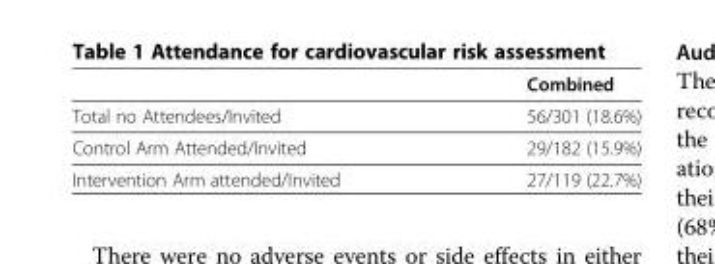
<table><thead><tr><td></td><td>Combined</td></tr></thead><tbody><tr><td>Total no Attendees/Invited</td><td>56/301 (18.6%)</td></tr><tr><td>Control Arm Attended/Invited</td><td>29/182 (15.9%)</td></tr><tr><td>Intervention Arm attended/Invited</td><td>27/119 (22.7%)</td></tr></tbody></table>